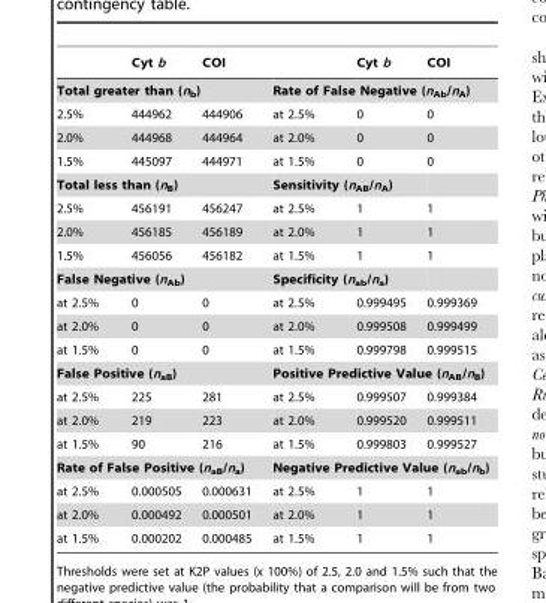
<table><thead><tr><td></td><td>Cyt b</td><td>COI</td><td></td><td>Cyt b</td><td>COI</td></tr></thead><tbody><tr><td colspan="3">Total greater than (n<sub>b</sub>)</td><td colspan="3">Rate of False Negative (n<sub>Ab</sub>/n<sub>A</sub>)</td></tr><tr><td>2.5%</td><td>444962</td><td>444906</td><td>at 2.5%</td><td>0</td><td>0</td></tr><tr><td>2.0%</td><td>444968</td><td>444964</td><td>at 2.0%</td><td>0</td><td>0</td></tr><tr><td>1.5%</td><td>445097</td><td>444971</td><td>at 1.5%</td><td>0</td><td>0</td></tr><tr><td colspan="3">Total less than (n<sub>B</sub>)</td><td colspan="2">Sensitivity (n<sub>AB</sub>/n<sub>A</sub>)</td><td></td></tr><tr><td>2.5%</td><td>456191</td><td>456247</td><td>at 2.5%</td><td>1</td><td>1</td></tr><tr><td>2.0%</td><td>456185</td><td>456189</td><td>at 2.0%</td><td>1</td><td>1</td></tr><tr><td>1.5%</td><td>456056</td><td>456182</td><td>at 1.5%</td><td>1</td><td>1</td></tr><tr><td colspan="3">False Negative (n<sub>Ab</sub>)</td><td colspan="2">Specificity (n<sub>ab</sub>/n<sub>a</sub>)</td><td></td></tr><tr><td>at 2.5%</td><td>0</td><td>0</td><td>at 2.5%</td><td>0.999495</td><td>0.999369</td></tr><tr><td>at 2.0%</td><td>0</td><td>0</td><td>at 2.0%</td><td>0.999508</td><td>0.999499</td></tr><tr><td>at 1.5%</td><td>0</td><td>0</td><td>at 1.5%</td><td>0.999798</td><td>0.999515</td></tr><tr><td colspan="3">False Positive (n<sub>aB</sub>)</td><td colspan="3">Positive Predictive Value (n<sub>AB</sub>/n<sub>B</sub>)</td></tr><tr><td>at 2.5%</td><td>225</td><td>281</td><td>at 2.5%</td><td>0.999507</td><td>0.999384</td></tr><tr><td>at 2.0%</td><td>219</td><td>223</td><td>at 2.0%</td><td>0.999520</td><td>0.999511</td></tr><tr><td>at 1.5%</td><td>90</td><td>216</td><td>at 1.5%</td><td>0.999803</td><td>0.999527</td></tr><tr><td colspan="3">Rate of False Positive (n<sub>aB</sub>/n<sub>a</sub>)</td><td colspan="3">Negative Predictive Value (n<sub>ab</sub>/n<sub>b</sub>)</td></tr><tr><td>at 2.5%</td><td>0.000505</td><td>0.000631</td><td>at 2.5%</td><td>1</td><td>1</td></tr><tr><td>at 2.0%</td><td>0.000492</td><td>0.000501</td><td>at 2.0%</td><td>1</td><td>1</td></tr><tr><td>at 1.5%</td><td>0.000202</td><td>0.000485</td><td>at 1.5%</td><td>1</td><td>1</td></tr></tbody></table>